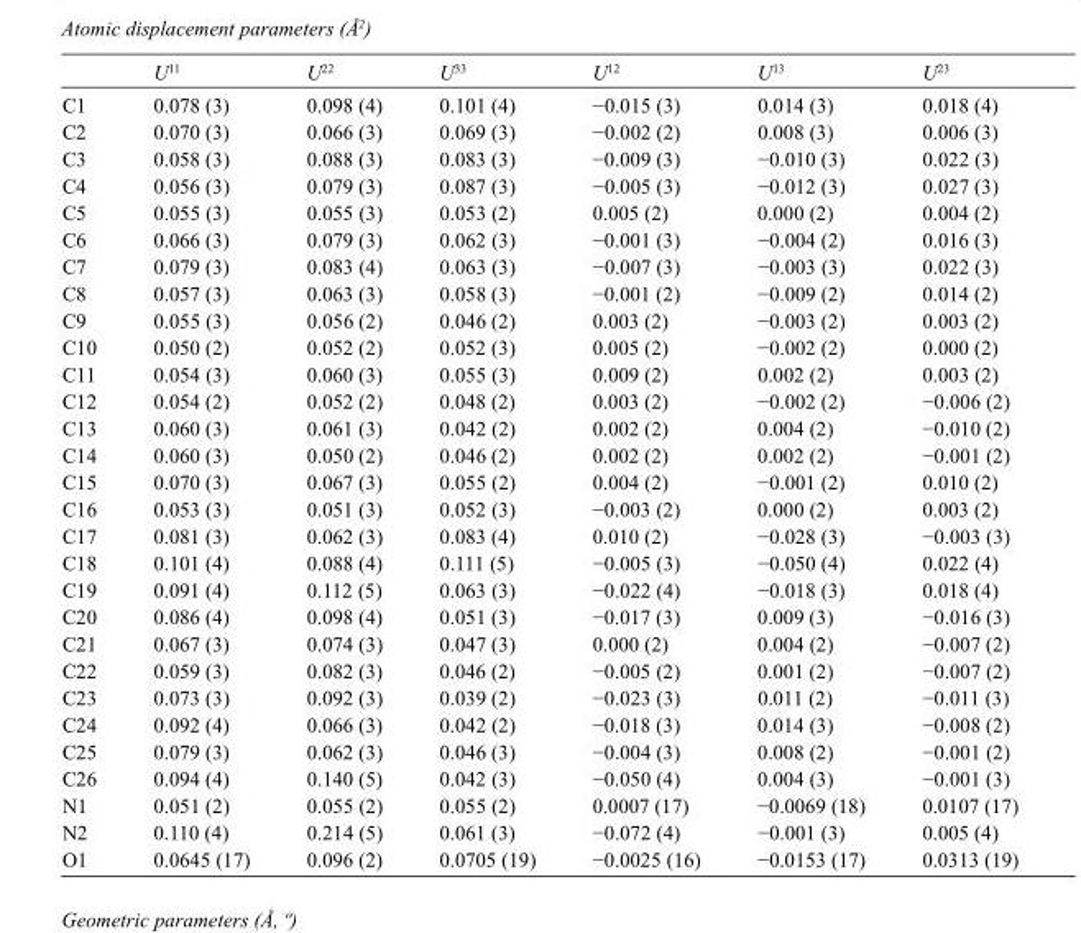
<table><thead><tr><td></td><td>U<sup>11</sup></td><td>U<sup>22</sup></td><td>U<sup>33</sup></td><td>U<sup>12</sup></td><td>U<sup>13</sup></td><td>U<sup>23</sup></td></tr></thead><tbody><tr><td>C1</td><td>0.078 (3)</td><td>0.098 (4)</td><td>0.101 (4)</td><td>−0.015 (3)</td><td>0.014 (3)</td><td>0.018 (4)</td></tr><tr><td>C2</td><td>0.070 (3)</td><td>0.066 (3)</td><td>0.069 (3)</td><td>−0.002 (2)</td><td>0.008 (3)</td><td>0.006 (3)</td></tr><tr><td>C3</td><td>0.058 (3)</td><td>0.088 (3)</td><td>0.083 (3)</td><td>−0.009 (3)</td><td>−0.010 (3)</td><td>0.022 (3)</td></tr><tr><td>C4</td><td>0.056 (3)</td><td>0.079 (3)</td><td>0.087 (3)</td><td>−0.005 (3)</td><td>−0.012 (3)</td><td>0.027 (3)</td></tr><tr><td>C5</td><td>0.055 (3)</td><td>0.055 (3)</td><td>0.053 (2)</td><td>0.005 (2)</td><td>0.000 (2)</td><td>0.004 (2)</td></tr><tr><td>C6</td><td>0.066 (3)</td><td>0.079 (3)</td><td>0.062 (3)</td><td>−0.001 (3)</td><td>−0.004 (2)</td><td>0.016 (3)</td></tr><tr><td>C7</td><td>0.079 (3)</td><td>0.083 (4)</td><td>0.063 (3)</td><td>−0.007 (3)</td><td>−0.003 (3)</td><td>0.022 (3)</td></tr><tr><td>C8</td><td>0.057 (3)</td><td>0.063 (3)</td><td>0.058 (3)</td><td>−0.001 (2)</td><td>−0.009 (2)</td><td>0.014 (2)</td></tr><tr><td>C9</td><td>0.055 (3)</td><td>0.056 (2)</td><td>0.046 (2)</td><td>0.003 (2)</td><td>−0.003 (2)</td><td>0.003 (2)</td></tr><tr><td>C10</td><td>0.050 (2)</td><td>0.052 (2)</td><td>0.052 (3)</td><td>0.005 (2)</td><td>−0.002 (2)</td><td>0.000 (2)</td></tr><tr><td>C11</td><td>0.054 (3)</td><td>0.060 (3)</td><td>0.055 (3)</td><td>0.009 (2)</td><td>0.002 (2)</td><td>0.003 (2)</td></tr><tr><td>C12</td><td>0.054 (2)</td><td>0.052 (2)</td><td>0.048 (2)</td><td>0.003 (2)</td><td>−0.002 (2)</td><td>−0.006 (2)</td></tr><tr><td>C13</td><td>0.060 (3)</td><td>0.061 (3)</td><td>0.042 (2)</td><td>0.002 (2)</td><td>0.004 (2)</td><td>−0.010 (2)</td></tr><tr><td>C14</td><td>0.060 (3)</td><td>0.050 (2)</td><td>0.046 (2)</td><td>0.002 (2)</td><td>0.002 (2)</td><td>−0.001 (2)</td></tr><tr><td>C15</td><td>0.070 (3)</td><td>0.067 (3)</td><td>0.055 (2)</td><td>0.004 (2)</td><td>−0.001 (2)</td><td>0.010 (2)</td></tr><tr><td>C16</td><td>0.053 (3)</td><td>0.051 (3)</td><td>0.052 (3)</td><td>−0.003 (2)</td><td>0.000 (2)</td><td>0.003 (2)</td></tr><tr><td>C17</td><td>0.081 (3)</td><td>0.062 (3)</td><td>0.083 (4)</td><td>0.010 (2)</td><td>−0.028 (3)</td><td>−0.003 (3)</td></tr><tr><td>C18</td><td>0.101 (4)</td><td>0.088 (4)</td><td>0.111 (5)</td><td>−0.005 (3)</td><td>−0.050 (4)</td><td>0.022 (4)</td></tr><tr><td>C19</td><td>0.091 (4)</td><td>0.112 (5)</td><td>0.063 (3)</td><td>−0.022 (4)</td><td>−0.018 (3)</td><td>0.018 (4)</td></tr><tr><td>C20</td><td>0.086 (4)</td><td>0.098 (4)</td><td>0.051 (3)</td><td>−0.017 (3)</td><td>0.009 (3)</td><td>−0.016 (3)</td></tr><tr><td>C21</td><td>0.067 (3)</td><td>0.074 (3)</td><td>0.047 (3)</td><td>0.000 (2)</td><td>0.004 (2)</td><td>−0.007 (2)</td></tr><tr><td>C22</td><td>0.059 (3)</td><td>0.082 (3)</td><td>0.046 (2)</td><td>−0.005 (2)</td><td>0.001 (2)</td><td>−0.007 (2)</td></tr><tr><td>C23</td><td>0.073 (3)</td><td>0.092 (3)</td><td>0.039 (2)</td><td>−0.023 (3)</td><td>0.011 (2)</td><td>−0.011 (3)</td></tr><tr><td>C24</td><td>0.092 (4)</td><td>0.066 (3)</td><td>0.042 (2)</td><td>−0.018 (3)</td><td>0.014 (3)</td><td>−0.008 (2)</td></tr><tr><td>C25</td><td>0.079 (3)</td><td>0.062 (3)</td><td>0.046 (3)</td><td>−0.004 (3)</td><td>0.008 (2)</td><td>−0.001 (2)</td></tr><tr><td>C26</td><td>0.094 (4)</td><td>0.140 (5)</td><td>0.042 (3)</td><td>−0.050 (4)</td><td>0.004 (3)</td><td>−0.001 (3)</td></tr><tr><td>N1</td><td>0.051 (2)</td><td>0.055 (2)</td><td>0.055 (2)</td><td>0.0007 (17)</td><td>−0.0069 (18)</td><td>0.0107 (17)</td></tr><tr><td>N2</td><td>0.110 (4)</td><td>0.214 (5)</td><td>0.061 (3)</td><td>−0.072 (4)</td><td>−0.001 (3)</td><td>0.005 (4)</td></tr><tr><td>O1</td><td>0.0645 (17)</td><td>0.096 (2)</td><td>0.0705 (19)</td><td>−0.0025 (16)</td><td>−0.0153 (17)</td><td>0.0313 (19)</td></tr></tbody></table>